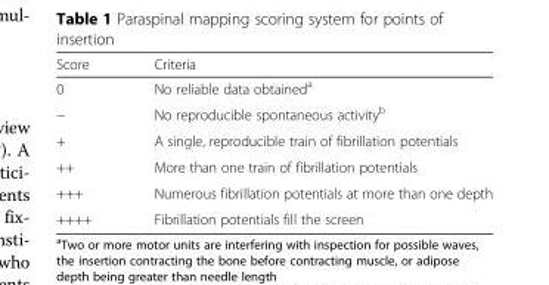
<table><thead><tr><td>Score</td><td>Criteria</td></tr></thead><tbody><tr><td>0</td><td>No reliable data obtained<sup>a</sup></td></tr><tr><td>−</td><td>No reproducible spontaneous activity<sup>b</sup></td></tr><tr><td>+</td><td>A single, reproducible train of fibrillation potentials</td></tr><tr><td>++</td><td>More than one train of fibrillation potentials</td></tr><tr><td>+++</td><td>Numerous fibrillation potentials at more than one depth</td></tr><tr><td>++++</td><td>Fibrillation potentials fill the screen</td></tr></tbody></table>